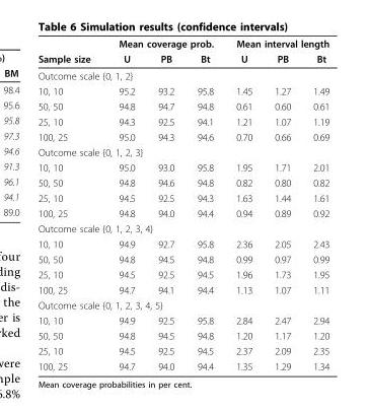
<table><thead><tr><td rowspan="2">Sample size</td><td colspan="3">Mean coverage prob.</td><td colspan="3">Mean interval length</td></tr><tr><td>U</td><td>PB</td><td>Bt</td><td>U</td><td>PB</td><td>Bt</td></tr></thead><tbody><tr><td colspan="7">Outcome scale {0, 1, 2}</td></tr><tr><td>10, 10</td><td>95.2</td><td>93.2</td><td>95.8</td><td>1.45</td><td>1.27</td><td>1.49</td></tr><tr><td>50, 50</td><td>94.8</td><td>94.7</td><td>94.8</td><td>0.61</td><td>0.60</td><td>0.61</td></tr><tr><td>25, 10</td><td>94.3</td><td>92.5</td><td>94.1</td><td>1.21</td><td>1.07</td><td>1.19</td></tr><tr><td>100, 25</td><td>95.0</td><td>94.3</td><td>94.6</td><td>0.70</td><td>0.66</td><td>0.69</td></tr><tr><td colspan="7">Outcome scale {0, 1, 2, 3}</td></tr><tr><td>10, 10</td><td>95.0</td><td>93.0</td><td>95.8</td><td>1.95</td><td>1.71</td><td>2.01</td></tr><tr><td>50, 50</td><td>94.8</td><td>94.6</td><td>94.8</td><td>0.82</td><td>0.80</td><td>0.82</td></tr><tr><td>25, 10</td><td>94.5</td><td>92.5</td><td>94.3</td><td>1.63</td><td>1.44</td><td>1.61</td></tr><tr><td>100, 25</td><td>94.8</td><td>94.0</td><td>94.4</td><td>0.94</td><td>0.89</td><td>0.92</td></tr><tr><td colspan="7">Outcome scale {0, 1, 2, 3, 4}</td></tr><tr><td>10, 10</td><td>94.9</td><td>92.7</td><td>95.8</td><td>2.36</td><td>2.05</td><td>2.43</td></tr><tr><td>50, 50</td><td>94.8</td><td>94.5</td><td>94.8</td><td>0.99</td><td>0.97</td><td>0.99</td></tr><tr><td>25, 10</td><td>94.5</td><td>92.5</td><td>94.5</td><td>1.96</td><td>1.73</td><td>1.95</td></tr><tr><td>100, 25</td><td>94.7</td><td>94.1</td><td>94.4</td><td>1.13</td><td>1.07</td><td>1.11</td></tr><tr><td colspan="7">Outcome scale {0, 1, 2, 3, 4, 5}</td></tr><tr><td>10, 10</td><td>94.9</td><td>92.5</td><td>95.8</td><td>2.84</td><td>2.47</td><td>2.94</td></tr><tr><td>50, 50</td><td>94.8</td><td>94.5</td><td>94.8</td><td>1.20</td><td>1.17</td><td>1.20</td></tr><tr><td>25, 10</td><td>94.5</td><td>92.5</td><td>94.5</td><td>2.37</td><td>2.09</td><td>2.35</td></tr><tr><td>100, 25</td><td>94.7</td><td>94.0</td><td>94.4</td><td>1.35</td><td>1.29</td><td>1.34</td></tr></tbody></table>